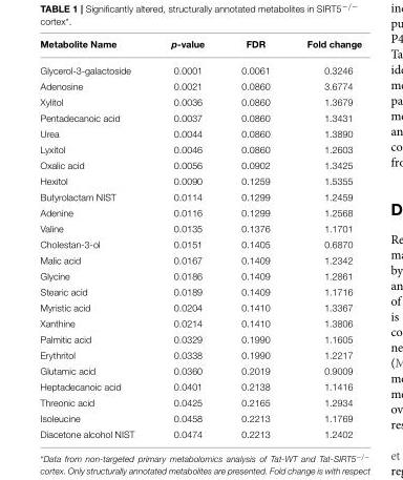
<table><thead><tr><td>Metabolite Name</td><td>p-value</td><td>FDR</td><td>Fold change</td></tr></thead><tbody><tr><td>Glycerol-3-galactoside</td><td>0.0001</td><td>0.0061</td><td>0.3246</td></tr><tr><td>Adenosine</td><td>0.0021</td><td>0.0860</td><td>3.6774</td></tr><tr><td>Xylitol</td><td>0.0036</td><td>0.0860</td><td>1.3679</td></tr><tr><td>Pentadecanoic acid</td><td>0.0037</td><td>0.0860</td><td>1.3431</td></tr><tr><td>Urea</td><td>0.0044</td><td>0.0860</td><td>1.3890</td></tr><tr><td>Lyxitol</td><td>0.0046</td><td>0.0860</td><td>1.2603</td></tr><tr><td>Oxalic acid</td><td>0.0056</td><td>0.0902</td><td>1.3425</td></tr><tr><td>Hexitol</td><td>0.0090</td><td>0.1259</td><td>1.5355</td></tr><tr><td>Butyrolactam NIST</td><td>0.0114</td><td>0.1299</td><td>1.2459</td></tr><tr><td>Adenine</td><td>0.0116</td><td>0.1299</td><td>1.2568</td></tr><tr><td>Valine</td><td>0.0135</td><td>0.1376</td><td>1.1701</td></tr><tr><td>Cholestan-3-ol</td><td>0.0151</td><td>0.1405</td><td>0.6870</td></tr><tr><td>Malic acid</td><td>0.0167</td><td>0.1409</td><td>1.2342</td></tr><tr><td>Glycine</td><td>0.0186</td><td>0.1409</td><td>1.2861</td></tr><tr><td>Stearic acid</td><td>0.0189</td><td>0.1409</td><td>1.1716</td></tr><tr><td>Myristic acid</td><td>0.0204</td><td>0.1410</td><td>1.3367</td></tr><tr><td>Xanthine</td><td>0.0214</td><td>0.1410</td><td>1.3806</td></tr><tr><td>Palmitic acid</td><td>0.0329</td><td>0.1990</td><td>1.1605</td></tr><tr><td>Erythritol</td><td>0.0338</td><td>0.1990</td><td>1.2217</td></tr><tr><td>Glutamic acid</td><td>0.0360</td><td>0.2019</td><td>0.9009</td></tr><tr><td>Heptadecanoic acid</td><td>0.0401</td><td>0.2138</td><td>1.1416</td></tr><tr><td>Threonic acid</td><td>0.0425</td><td>0.2165</td><td>1.2934</td></tr><tr><td>Isoleucine</td><td>0.0458</td><td>0.2213</td><td>1.1769</td></tr><tr><td>Diacetone alcohol NIST</td><td>0.0474</td><td>0.2213</td><td>1.2402</td></tr></tbody></table>